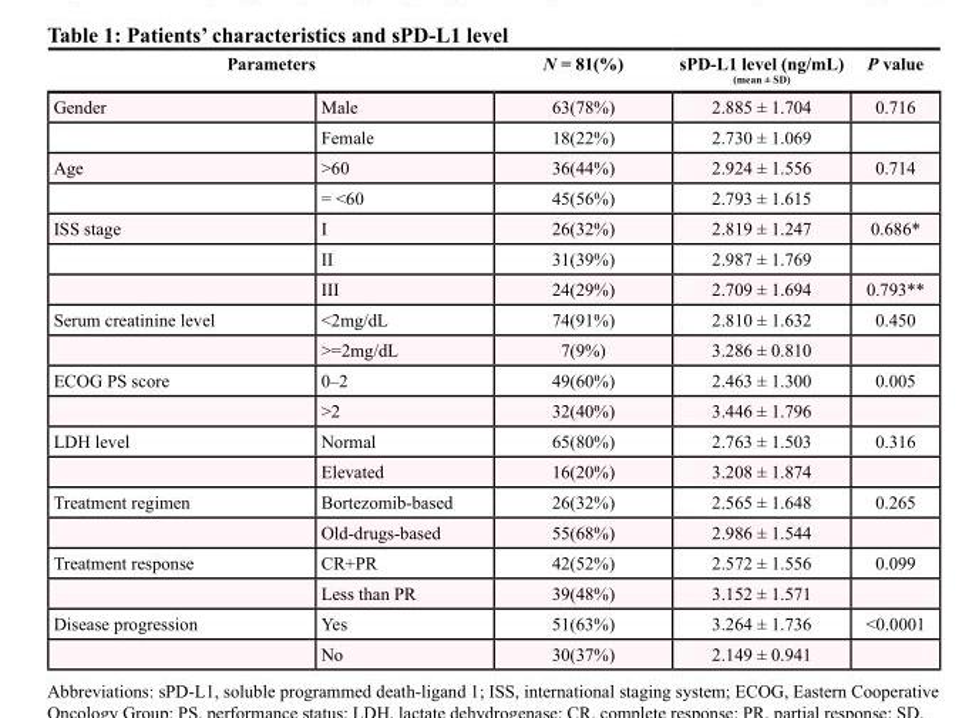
<table><thead><tr><td colspan="2">Parameters</td><td rowspan="2">N = 81(%) 63(78%)</td><td rowspan="2">sPD-L1 level (ng/mL) (mean ± SD) 2.885 ± 1.704</td><td rowspan="2">P value 0.716</td></tr><tr><td>Gender</td><td>Male</td></tr></thead><tbody><tr><td></td><td>Female</td><td>18(22%)</td><td>2.730 ± 1.069</td><td></td></tr><tr><td rowspan="2">Age</td><td>&gt;60</td><td>36(44%)</td><td>2.924 ± 1.556</td><td>0.714</td></tr><tr><td>= &lt;60</td><td>45(56%)</td><td>2.793 ± 1.615</td><td></td></tr><tr><td rowspan="3">ISS stage</td><td>I</td><td>26(32%)</td><td>2.819 ± 1.247</td><td>0.686*</td></tr><tr><td>II</td><td>31(39%)</td><td>2.987 ± 1.769</td><td></td></tr><tr><td>III</td><td>24(29%)</td><td>2.709 ± 1.694</td><td>0.793**</td></tr><tr><td rowspan="2">Serum creatinine level</td><td>&lt;2mg/dL</td><td>74(91%)</td><td>2.810 ± 1.632</td><td>0.450</td></tr><tr><td>&gt;=2mg/dL</td><td>7(9%)</td><td>3.286 ± 0.810</td><td></td></tr><tr><td rowspan="2">ECOG PS score</td><td>0–2</td><td>49(60%)</td><td>2.463 ± 1.300</td><td>0.005</td></tr><tr><td>&gt;2</td><td>32(40%)</td><td>3.446 ± 1.796</td><td></td></tr><tr><td rowspan="2">LDH level</td><td>Normal</td><td>65(80%)</td><td>2.763 ± 1.503</td><td>0.316</td></tr><tr><td>Elevated</td><td>16(20%)</td><td>3.208 ± 1.874</td><td></td></tr><tr><td rowspan="2">Treatment regimen</td><td>Bortezomib-based</td><td>26(32%)</td><td>2.565 ± 1.648</td><td>0.265</td></tr><tr><td>Old-drugs-based</td><td>55(68%)</td><td>2.986 ± 1.544</td><td></td></tr><tr><td rowspan="2">Treatment response</td><td>CR+PR</td><td>42(52%)</td><td>2.572 ± 1.556</td><td>0.099</td></tr><tr><td>Less than PR</td><td>39(48%)</td><td>3.152 ± 1.571</td><td></td></tr><tr><td rowspan="2">Disease progression</td><td>Yes</td><td>51(63%)</td><td>3.264 ± 1.736</td><td>&lt;0.0001</td></tr><tr><td>No</td><td>30(37%)</td><td>2.149 ± 0.941</td><td></td></tr></tbody></table>